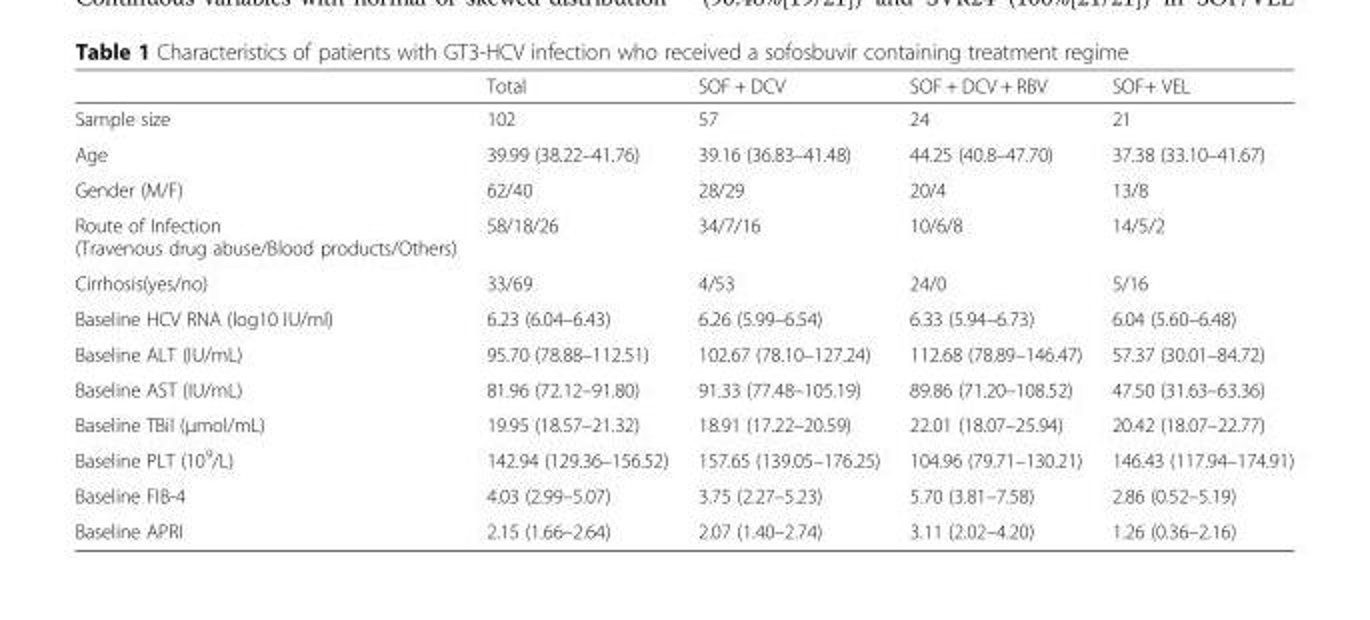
<table><thead><tr><td></td><td>Total</td><td>SOF + DCV</td><td>SOF + DCV + RBV</td><td>SOF+ VEL</td></tr></thead><tbody><tr><td>Sample size</td><td>102</td><td>57</td><td>24</td><td>21</td></tr><tr><td>Age</td><td>39.99 (38.22–41.76)</td><td>39.16 (36.83–41.48)</td><td>44.25 (40.8–47.70)</td><td>37.38 (33.10–41.67)</td></tr><tr><td>Gender (M/F)</td><td>62/40</td><td>28/29</td><td>20/4</td><td>13/8</td></tr><tr><td>Route of Infection (Travenous drug abuse/Blood products/Others)</td><td>58/18/26</td><td>34/7/16</td><td>10/6/8</td><td>14/5/2</td></tr><tr><td>Cirrhosis(yes/no)</td><td>33/69</td><td>4/53</td><td>24/0</td><td>5/16</td></tr><tr><td>Baseline HCV RNA (log10 IU/ml)</td><td>6.23 (6.04–6.43)</td><td>6.26 (5.99–6.54)</td><td>6.33 (5.94–6.73)</td><td>6.04 (5.60–6.48)</td></tr><tr><td>Baseline ALT (IU/mL)</td><td>95.70 (78.88–112.51)</td><td>102.67 (78.10–127.24)</td><td>112.68 (78.89–146.47)</td><td>57.37 (30.01–84.72)</td></tr><tr><td>Baseline AST (IU/mL)</td><td>81.96 (72.12–91.80)</td><td>91.33 (77.48–105.19)</td><td>89.86 (71.20–108.52)</td><td>47.50 (31.63–63.36)</td></tr><tr><td>Baseline TBil (μmol/mL)</td><td>19.95 (18.57–21.32)</td><td>18.91 (17.22–20.59)</td><td>22.01 (18.07–25.94)</td><td>20.42 (18.07–22.77)</td></tr><tr><td>Baseline PLT (10<sup>9</sup>/L)</td><td>142.94 (129.36–156.52)</td><td>157.65 (139.05–176.25)</td><td>104.96 (79.71–130.21)</td><td>146.43 (117.94–174.91)</td></tr><tr><td>Baseline FIB-4</td><td>4.03 (2.99–5.07)</td><td>3.75 (2.27–5.23)</td><td>5.70 (3.81–7.58)</td><td>2.86 (0.52–5.19)</td></tr><tr><td>Baseline APRI</td><td>2.15 (1.66–2.64)</td><td>2.07 (1.40–2.74)</td><td>3.11 (2.02–4.20)</td><td>1.26 (0.36–2.16)</td></tr></tbody></table>